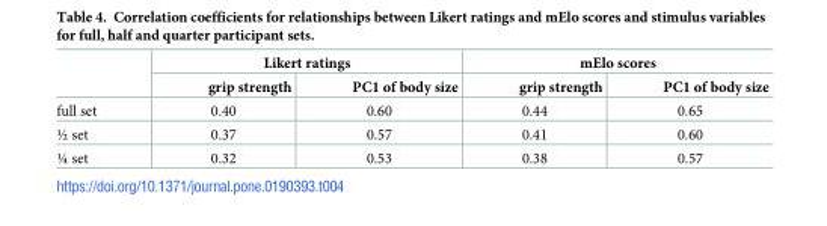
<table><thead><tr><td rowspan="2"></td><td colspan="2">Likert ratings</td><td colspan="2">mElo scores</td></tr><tr><td>grip strength</td><td>PC1 of body size</td><td>grip strength</td><td>PC1 of body size</td></tr></thead><tbody><tr><td>full set</td><td>0.40</td><td>0.60</td><td>0.44</td><td>0.65</td></tr><tr><td>½ set</td><td>0.37</td><td>0.57</td><td>0.41</td><td>0.60</td></tr><tr><td>¼ set</td><td>0.32</td><td>0.53</td><td>0.38</td><td>0.57</td></tr></tbody></table>